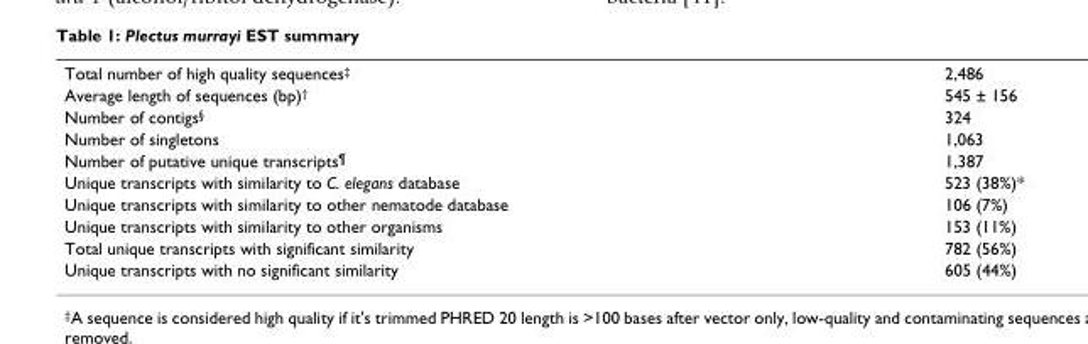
<table><tbody><tr><td>Total number of high quality sequences<sup>‡</sup></td><td>2,486</td></tr><tr><td>Average length of sequences (bp)<sup>†</sup></td><td>545 ± 156</td></tr><tr><td>Number of contigs<sup>§</sup></td><td>324</td></tr><tr><td>Number of singletons</td><td>1,063</td></tr><tr><td>Number of putative unique transcripts<sup>¶</sup></td><td>1,387</td></tr><tr><td>Unique transcripts with similarity to C. elegans database</td><td>523 (38%)*</td></tr><tr><td>Unique transcripts with similarity to other nematode database</td><td>106 (7%)</td></tr><tr><td>Unique transcripts with similarity to other organisms</td><td>153 (11%)</td></tr><tr><td>Total unique transcripts with significant similarity</td><td>782 (56%)</td></tr><tr><td>Unique transcripts with no significant similarity</td><td>605 (44%)</td></tr></tbody></table>